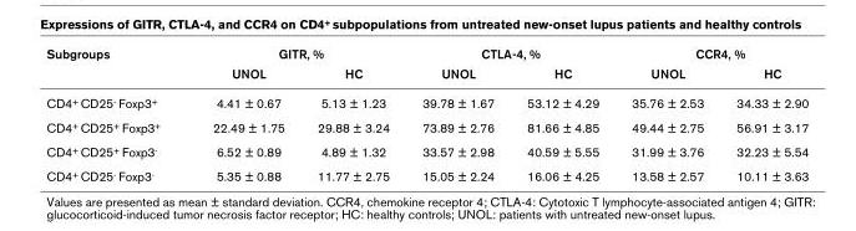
<table><thead><tr><td rowspan="2">Subgroups</td><td colspan="2">GITR, %</td><td colspan="2">CTLA-4, %</td><td colspan="2">CCR4, %</td></tr><tr><td>UNOL</td><td>HC</td><td>UNOL</td><td>HC</td><td>UNOL</td><td>HC</td></tr></thead><tbody><tr><td>CD4<sup>+</sup> CD25<sup>-</sup> Foxp3<sup>+</sup></td><td>4.41 ± 0.67</td><td>5.13 ± 1.23</td><td>39.78 ± 1.67</td><td>53.12 ± 4.29</td><td>35.76 ± 2.53</td><td>34.33 ± 2.90</td></tr><tr><td>CD4<sup>+</sup> CD25<sup>+</sup> Foxp3<sup>+</sup></td><td>22.49 ± 1.75</td><td>29.88 ± 3.24</td><td>73.89 ± 2.76</td><td>81.66 ± 4.85</td><td>49.44 ± 2.75</td><td>56.91 ± 3.17</td></tr><tr><td>CD4<sup>+</sup> CD25<sup>+</sup> Foxp3<sup>-</sup></td><td>6.52 ± 0.89</td><td>4.89 ± 1.32</td><td>33.57 ± 2.98</td><td>40.59 ± 5.55</td><td>31.99 ± 3.76</td><td>32.23 ± 5.54</td></tr><tr><td>CD4<sup>+</sup> CD25<sup>-</sup> Foxp3<sup>-</sup></td><td>5.35 ± 0.88</td><td>11.77 ± 2.75</td><td>15.05 ± 2.24</td><td>16.06 ± 4.25</td><td>13.58 ± 2.57</td><td>10.11 ± 3.63</td></tr></tbody></table>